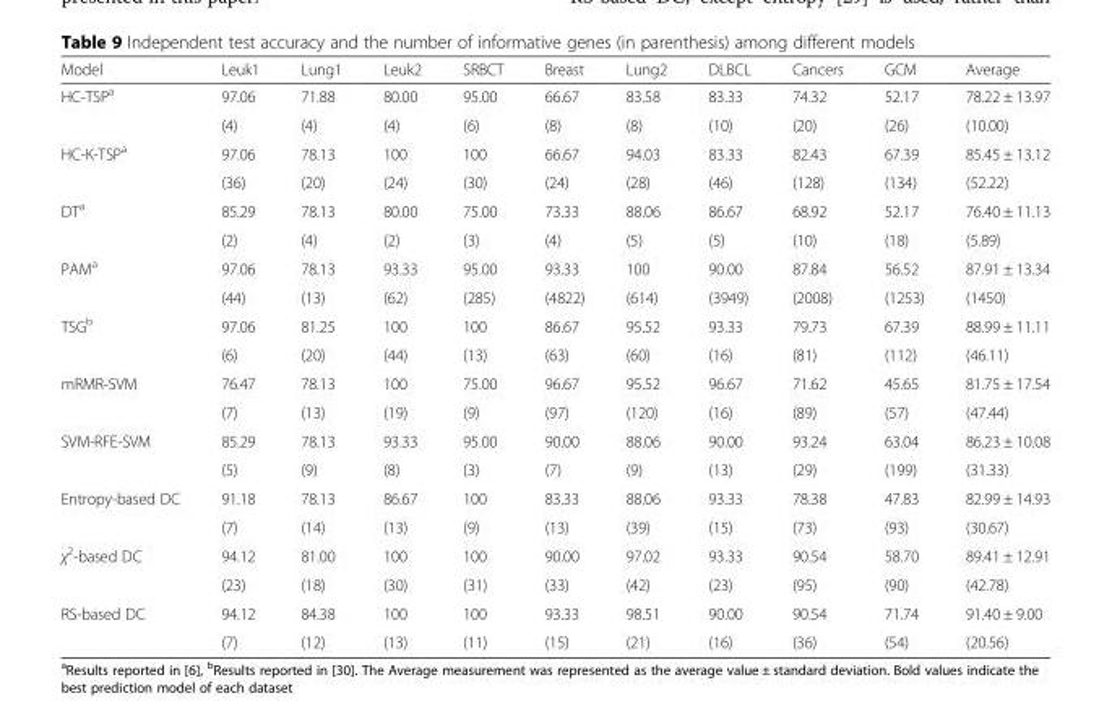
<table><thead><tr><td>Model</td><td>Leuk1</td><td>Lung1</td><td>Leuk2</td><td>SRBCT</td><td>Breast</td><td>Lung2</td><td>DLBCL</td><td>Cancers</td><td>GCM</td><td>Average</td></tr></thead><tbody><tr><td rowspan="2">HC-TSP<sup>a</sup></td><td>97.06</td><td>71.88</td><td>80.00</td><td>95.00</td><td>66.67</td><td>83.58</td><td>83.33</td><td>74.32</td><td>52.17</td><td>78.22 ± 13.97</td></tr><tr><td>(4)</td><td>(4)</td><td>(4)</td><td>(6)</td><td>(8)</td><td>(8)</td><td>(10)</td><td>(20)</td><td>(26)</td><td>(10.00)</td></tr><tr><td rowspan="2">HC-K-TSP<sup>a</sup></td><td>97.06</td><td>78.13</td><td>100</td><td>100</td><td>66.67</td><td>94.03</td><td>83.33</td><td>82.43</td><td>67.39</td><td>85.45 ± 13.12</td></tr><tr><td>(36)</td><td>(20)</td><td>(24)</td><td>(30)</td><td>(24)</td><td>(28)</td><td>(46)</td><td>(128)</td><td>(134)</td><td>(52.22)</td></tr><tr><td rowspan="2">DT<sup>a</sup></td><td>85.29</td><td>78.13</td><td>80.00</td><td>75.00</td><td>73.33</td><td>88.06</td><td>86.67</td><td>68.92</td><td>52.17</td><td>76.40 ± 11.13</td></tr><tr><td>(2)</td><td>(4)</td><td>(2)</td><td>(3)</td><td>(4)</td><td>(5)</td><td>(5)</td><td>(10)</td><td>(18)</td><td>(5.89)</td></tr><tr><td rowspan="2">PAM<sup>a</sup></td><td>97.06</td><td>78.13</td><td>93.33</td><td>95.00</td><td>93.33</td><td>100</td><td>90.00</td><td>87.84</td><td>56.52</td><td>87.91 ± 13.34</td></tr><tr><td>(44)</td><td>(13)</td><td>(62)</td><td>(285)</td><td>(4822)</td><td>(614)</td><td>(3949)</td><td>(2008)</td><td>(1253)</td><td>(1450)</td></tr><tr><td rowspan="2">TSG<sup>b</sup></td><td>97.06</td><td>81.25</td><td>100</td><td>100</td><td>86.67</td><td>95.52</td><td>93.33</td><td>79.73</td><td>67.39</td><td>88.99 ± 11.11</td></tr><tr><td>(6)</td><td>(20)</td><td>(44)</td><td>(13)</td><td>(63)</td><td>(60)</td><td>(16)</td><td>(81)</td><td>(112)</td><td>(46.11)</td></tr><tr><td rowspan="2">mRMR-SVM</td><td>76.47</td><td>78.13</td><td>100</td><td>75.00</td><td>96.67</td><td>95.52</td><td>96.67</td><td>71.62</td><td>45.65</td><td>81.75 ± 17.54</td></tr><tr><td>(7)</td><td>(13)</td><td>(19)</td><td>(9)</td><td>(97)</td><td>(120)</td><td>(16)</td><td>(89)</td><td>(57)</td><td>(47.44)</td></tr><tr><td rowspan="2">SVM-RFE-SVM</td><td>85.29</td><td>78.13</td><td>93.33</td><td>95.00</td><td>90.00</td><td>88.06</td><td>90.00</td><td>93.24</td><td>63.04</td><td>86.23 ± 10.08</td></tr><tr><td>(5)</td><td>(9)</td><td>(8)</td><td>(3)</td><td>(7)</td><td>(9)</td><td>(13)</td><td>(29)</td><td>(199)</td><td>(31.33)</td></tr><tr><td rowspan="2">Entropy-based DC</td><td>91.18</td><td>78.13</td><td>86.67</td><td>100</td><td>83.33</td><td>88.06</td><td>93.33</td><td>78.38</td><td>47.83</td><td>82.99 ± 14.93</td></tr><tr><td>(7)</td><td>(14)</td><td>(13)</td><td>(9)</td><td>(13)</td><td>(39)</td><td>(15)</td><td>(73)</td><td>(93)</td><td>(30.67)</td></tr><tr><td rowspan="2">χ<sup>2</sup>-based DC</td><td>94.12</td><td>81.00</td><td>100</td><td>100</td><td>90.00</td><td>97.02</td><td>93.33</td><td>90.54</td><td>58.70</td><td>89.41 ± 12.91</td></tr><tr><td>(23)</td><td>(18)</td><td>(30)</td><td>(31)</td><td>(33)</td><td>(42)</td><td>(23)</td><td>(95)</td><td>(90)</td><td>(42.78)</td></tr><tr><td rowspan="2">RS-based DC</td><td>94.12</td><td>84.38</td><td>100</td><td>100</td><td>93.33</td><td>98.51</td><td>90.00</td><td>90.54</td><td>71.74</td><td>91.40 ± 9.00</td></tr><tr><td>(7)</td><td>(12)</td><td>(13)</td><td>(11)</td><td>(15)</td><td>(21)</td><td>(16)</td><td>(36)</td><td>(54)</td><td>(20.56)</td></tr></tbody></table>